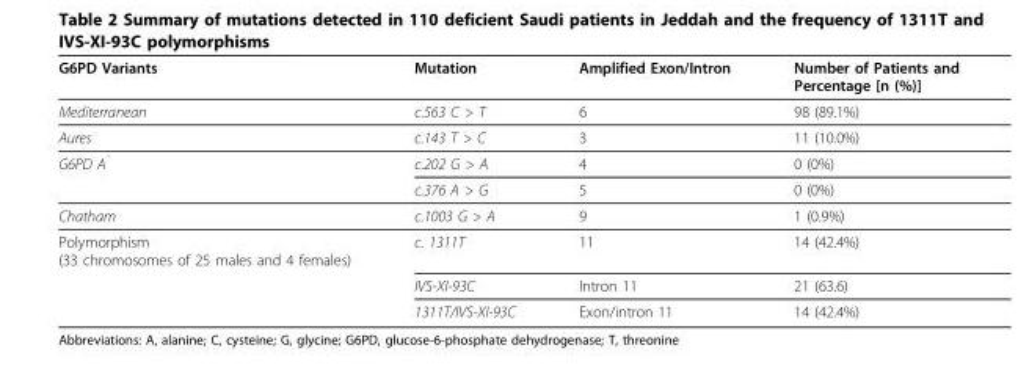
<table><thead><tr><td>G6PD Variants</td><td>Mutation</td><td>Amplified Exon/Intron</td><td>Number of Patients and Percentage [n (%)]</td></tr></thead><tbody><tr><td>Mediterranean</td><td>c.563 C &gt; T</td><td>6</td><td>98 (89.1%)</td></tr><tr><td>Aures</td><td>c.143 T &gt; C</td><td>3</td><td>11 (10.0%)</td></tr><tr><td rowspan="2">G6PD A<sup>¯</sup></td><td>c.202 G &gt; A</td><td>4</td><td>0 (0%)</td></tr><tr><td>c.376 A &gt; G</td><td>5</td><td>0 (0%)</td></tr><tr><td>Chatham</td><td>c.1003 G &gt; A</td><td>9</td><td>1 (0.9%)</td></tr><tr><td rowspan="3">Polymorphism (33 chromosomes of 25 males and 4 females)</td><td>c. 1311T</td><td>11</td><td>14 (42.4%)</td></tr><tr><td>IVS-XI-93C</td><td>Intron 11</td><td>21 (63.6)</td></tr><tr><td>1311T/IVS-XI-93C</td><td>Exon/intron 11</td><td>14 (42.4%)</td></tr></tbody></table>